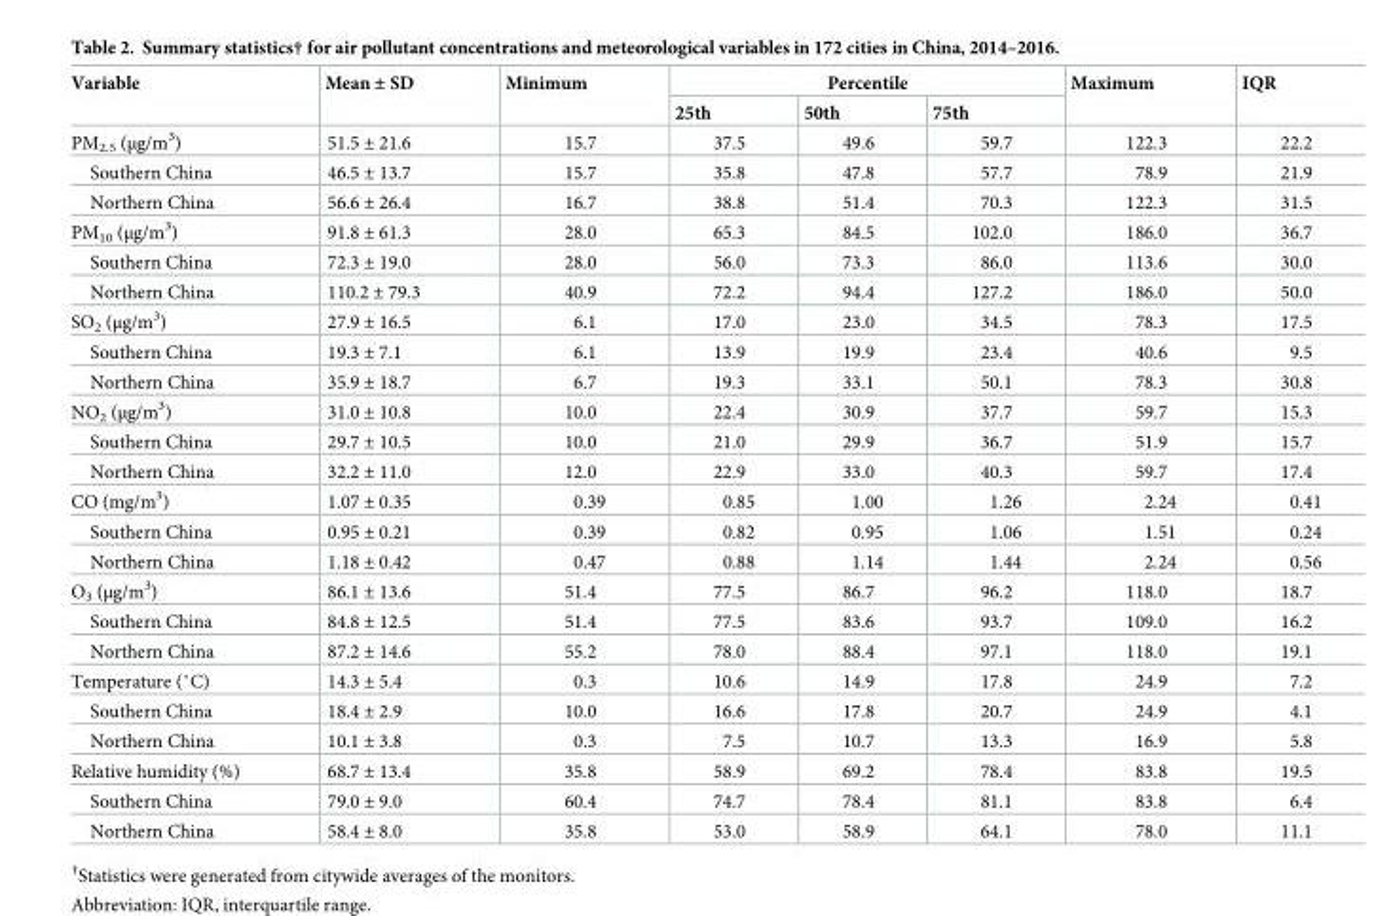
<table><thead><tr><td rowspan="2">Variable</td><td rowspan="2">Mean ± SD</td><td rowspan="2">Minimum</td><td colspan="3">Percentile</td><td rowspan="2">Maximum</td><td rowspan="2">IQR</td></tr><tr><td>25th</td><td>50th</td><td>75th</td></tr></thead><tbody><tr><td>PM<sub>2.5</sub> (μg/m<sup>3</sup>)</td><td>51.5 ± 21.6</td><td>15.7</td><td>37.5</td><td>49.6</td><td>59.7</td><td>122.3</td><td>22.2</td></tr><tr><td>Southern China</td><td>46.5 ± 13.7</td><td>15.7</td><td>35.8</td><td>47.8</td><td>57.7</td><td>78.9</td><td>21.9</td></tr><tr><td>Northern China</td><td>56.6 ± 26.4</td><td>16.7</td><td>38.8</td><td>51.4</td><td>70.3</td><td>122.3</td><td>31.5</td></tr><tr><td>PM<sub>10</sub> (μg/m<sup>3</sup>)</td><td>91.8 ± 61.3</td><td>28.0</td><td>65.3</td><td>84.5</td><td>102.0</td><td>186.0</td><td>36.7</td></tr><tr><td>Southern China</td><td>72.3 ± 19.0</td><td>28.0</td><td>56.0</td><td>73.3</td><td>86.0</td><td>113.6</td><td>30.0</td></tr><tr><td>Northern China</td><td>110.2 ± 79.3</td><td>40.9</td><td>72.2</td><td>94.4</td><td>127.2</td><td>186.0</td><td>50.0</td></tr><tr><td>SO<sub>2</sub> (μg/m<sup>3</sup>)</td><td>27.9 ± 16.5</td><td>6.1</td><td>17.0</td><td>23.0</td><td>34.5</td><td>78.3</td><td>17.5</td></tr><tr><td>Southern China</td><td>19.3 ± 7.1</td><td>6.1</td><td>13.9</td><td>19.9</td><td>23.4</td><td>40.6</td><td>9.5</td></tr><tr><td>Northern China</td><td>35.9 ± 18.7</td><td>6.7</td><td>19.3</td><td>33.1</td><td>50.1</td><td>78.3</td><td>30.8</td></tr><tr><td>NO<sub>2</sub> (μg/m<sup>3</sup>)</td><td>31.0 ± 10.8</td><td>10.0</td><td>22.4</td><td>30.9</td><td>37.7</td><td>59.7</td><td>15.3</td></tr><tr><td>Southern China</td><td>29.7 ± 10.5</td><td>10.0</td><td>21.0</td><td>29.9</td><td>36.7</td><td>51.9</td><td>15.7</td></tr><tr><td>Northern China</td><td>32.2 ± 11.0</td><td>12.0</td><td>22.9</td><td>33.0</td><td>40.3</td><td>59.7</td><td>17.4</td></tr><tr><td>CO (mg/m<sup>3</sup>)</td><td>1.07 ± 0.35</td><td>0.39</td><td>0.85</td><td>1.00</td><td>1.26</td><td>2.24</td><td>0.41</td></tr><tr><td>Southern China</td><td>0.95 ± 0.21</td><td>0.39</td><td>0.82</td><td>0.95</td><td>1.06</td><td>1.51</td><td>0.24</td></tr><tr><td>Northern China</td><td>1.18 ± 0.42</td><td>0.47</td><td>0.88</td><td>1.14</td><td>1.44</td><td>2.24</td><td>0.56</td></tr><tr><td>O<sub>3</sub> (μg/m<sup>3</sup>)</td><td>86.1 ± 13.6</td><td>51.4</td><td>77.5</td><td>86.7</td><td>96.2</td><td>118.0</td><td>18.7</td></tr><tr><td>Southern China</td><td>84.8 ± 12.5</td><td>51.4</td><td>77.5</td><td>83.6</td><td>93.7</td><td>109.0</td><td>16.2</td></tr><tr><td>Northern China</td><td>87.2 ± 14.6</td><td>55.2</td><td>78.0</td><td>88.4</td><td>97.1</td><td>118.0</td><td>19.1</td></tr><tr><td>Temperature (˚C)</td><td>14.3 ± 5.4</td><td>0.3</td><td>10.6</td><td>14.9</td><td>17.8</td><td>24.9</td><td>7.2</td></tr><tr><td>Southern China</td><td>18.4 ± 2.9</td><td>10.0</td><td>16.6</td><td>17.8</td><td>20.7</td><td>24.9</td><td>4.1</td></tr><tr><td>Northern China</td><td>10.1 ± 3.8</td><td>0.3</td><td>7.5</td><td>10.7</td><td>13.3</td><td>16.9</td><td>5.8</td></tr><tr><td>Relative humidity (%)</td><td>68.7 ± 13.4</td><td>35.8</td><td>58.9</td><td>69.2</td><td>78.4</td><td>83.8</td><td>19.5</td></tr><tr><td>Southern China</td><td>79.0 ± 9.0</td><td>60.4</td><td>74.7</td><td>78.4</td><td>81.1</td><td>83.8</td><td>6.4</td></tr><tr><td>Northern China</td><td>58.4 ± 8.0</td><td>35.8</td><td>53.0</td><td>58.9</td><td>64.1</td><td>78.0</td><td>11.1</td></tr></tbody></table>